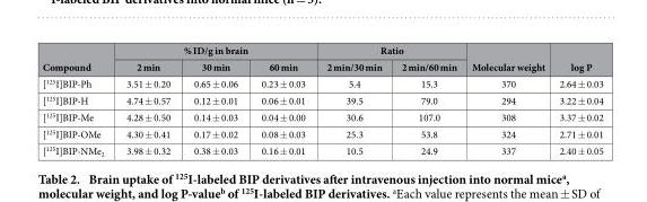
<table><thead><tr><td rowspan="2">Compound</td><td colspan="3">% ID/g in brain</td><td colspan="2">Ratio</td><td rowspan="2">Molecular weight</td><td rowspan="2">log P</td></tr><tr><td>2 min</td><td>30 min</td><td>60 min</td><td>2 min/30 min</td><td>2 min/60 min</td></tr></thead><tbody><tr><td>[<sup>125</sup>I]BIP-Ph</td><td>3.51 ± 0.20</td><td>0.65 ± 0.06</td><td>0.23 ± 0.03</td><td>5.4</td><td>15.3</td><td>370</td><td>2.64 ± 0.03</td></tr><tr><td>[<sup>125</sup>I]BIP-H</td><td>4.74 ± 0.57</td><td>0.12 ± 0.01</td><td>0.06 ± 0.01</td><td>39.5</td><td>79.0</td><td>294</td><td>3.22 ± 0.04</td></tr><tr><td>[<sup>125</sup>I]BIP-Me</td><td>4.28 ± 0.50</td><td>0.14 ± 0.03</td><td>0.04 ± 0.00</td><td>30.6</td><td>107.0</td><td>308</td><td>3.37 ± 0.02</td></tr><tr><td>[<sup>125</sup>I]BIP-OMe</td><td>4.30 ± 0.41</td><td>0.17 ± 0.02</td><td>0.08 ± 0.03</td><td>25.3</td><td>53.8</td><td>324</td><td>2.71 ± 0.01</td></tr><tr><td>[<sup>125</sup>I]BIP-NMe<sub>2</sub></td><td>3.98 ± 0.32</td><td>0.38 ± 0.03</td><td>0.16 ± 0.01</td><td>10.5</td><td>24.9</td><td>337</td><td>2.40 ± 0.05</td></tr></tbody></table>